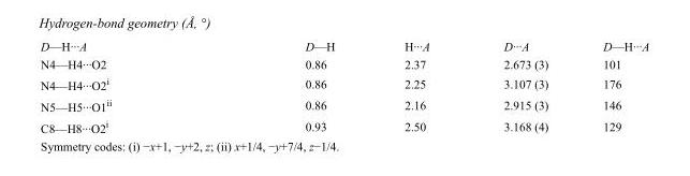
<table><tbody><tr><td>D—H···A</td><td>D—H</td><td>H···A</td><td>D···A</td><td>D—H···A</td></tr><tr><td>N4—H4···O2</td><td>0.86</td><td>2.37</td><td>2.673 (3)</td><td>101</td></tr><tr><td>N4—H4···O2<sup>i</sup></td><td>0.86</td><td>2.25</td><td>3.107 (3)</td><td>176</td></tr><tr><td>N5—H5···O1<sup>ii</sup></td><td>0.86</td><td>2.16</td><td>2.915 (3)</td><td>146</td></tr><tr><td>C8—H8···O2<sup>i</sup></td><td>0.93</td><td>2.50</td><td>3.168 (4)</td><td>129</td></tr></tbody></table>